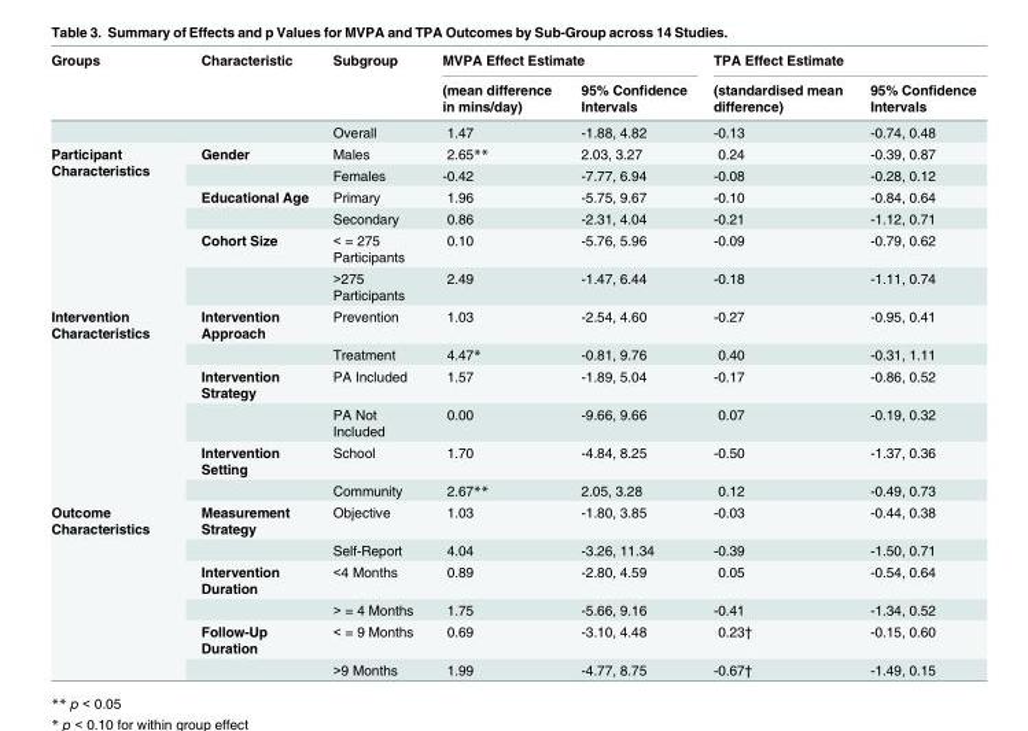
<table><thead><tr><td rowspan="2">Groups</td><td rowspan="2">Characteristic</td><td rowspan="2">Subgroup</td><td colspan="2">MVPA Effect Estimate</td><td colspan="2">TPA Effect Estimate</td></tr><tr><td>(mean difference in mins/day)</td><td>95% Confidence Intervals</td><td>(standardised mean difference)</td><td>95% Confidence Intervals</td></tr></thead><tbody><tr><td></td><td></td><td>Overall</td><td>1.47</td><td>-1.88, 4.82</td><td>-0.13</td><td>-0.74, 0.48</td></tr><tr><td rowspan="6">Participant Characteristics</td><td>Gender</td><td>Males</td><td>2.65**</td><td>2.03, 3.27</td><td>0.24</td><td>-0.39, 0.87</td></tr><tr><td></td><td>Females</td><td>-0.42</td><td>-7.77, 6.94</td><td>-0.08</td><td>-0.28, 0.12</td></tr><tr><td>Educational Age</td><td>Primary</td><td>1.96</td><td>-5.75, 9.67</td><td>-0.10</td><td>-0.84, 0.64</td></tr><tr><td></td><td>Secondary</td><td>0.86</td><td>-2.31, 4.04</td><td>-0.21</td><td>-1.12, 0.71</td></tr><tr><td>Cohort Size</td><td>&lt; = 275 Participants</td><td>0.10</td><td>-5.76, 5.96</td><td>-0.09</td><td>-0.79, 0.62</td></tr><tr><td></td><td>&gt;275 Participants</td><td>2.49</td><td>-1.47, 6.44</td><td>-0.18</td><td>-1.11, 0.74</td></tr><tr><td rowspan="6">Intervention Characteristics</td><td>Intervention Approach</td><td>Prevention</td><td>1.03</td><td>-2.54, 4.60</td><td>-0.27</td><td>-0.95, 0.41</td></tr><tr><td></td><td>Treatment</td><td>4.47*</td><td>-0.81, 9.76</td><td>0.40</td><td>-0.31, 1.11</td></tr><tr><td>Intervention Strategy</td><td>PA Included</td><td>1.57</td><td>-1.89, 5.04</td><td>-0.17</td><td>-0.86, 0.52</td></tr><tr><td></td><td>PA Not Included</td><td>0.00</td><td>-9.66, 9.66</td><td>0.07</td><td>-0.19, 0.32</td></tr><tr><td>Intervention Setting</td><td>School</td><td>1.70</td><td>-4.84, 8.25</td><td>-0.50</td><td>-1.37, 0.36</td></tr><tr><td></td><td>Community</td><td>2.67**</td><td>2.05, 3.28</td><td>0.12</td><td>-0.49, 0.73</td></tr><tr><td rowspan="6">Outcome Characteristics</td><td>Measurement Strategy</td><td>Objective</td><td>1.03</td><td>-1.80, 3.85</td><td>-0.03</td><td>-0.44, 0.38</td></tr><tr><td></td><td>Self-Report</td><td>4.04</td><td>-3.26, 11.34</td><td>-0.39</td><td>-1.50, 0.71</td></tr><tr><td>Intervention Duration</td><td>&lt;4 Months</td><td>0.89</td><td>-2.80, 4.59</td><td>0.05</td><td>-0.54, 0.64</td></tr><tr><td></td><td>&gt; = 4 Months</td><td>1.75</td><td>-5.66, 9.16</td><td>-0.41</td><td>-1.34, 0.52</td></tr><tr><td>Follow-Up Duration</td><td>&lt; = 9 Months</td><td>0.69</td><td>-3.10, 4.48</td><td>0.23†</td><td>-0.15, 0.60</td></tr><tr><td></td><td>&gt;9 Months</td><td>1.99</td><td>-4.77, 8.75</td><td>-0.67†</td><td>-1.49, 0.15</td></tr></tbody></table>